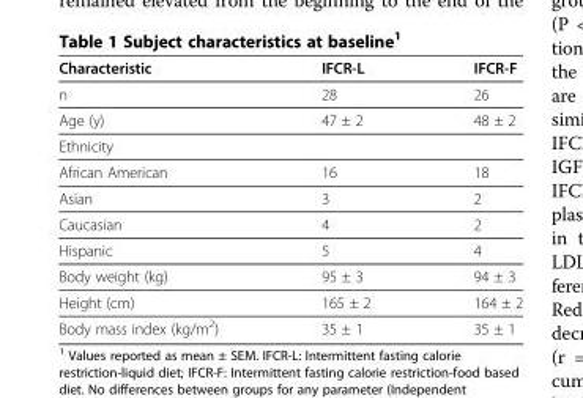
<table><thead><tr><td>Characteristic</td><td>IFCR-L</td><td>IFCR-F</td></tr></thead><tbody><tr><td>n</td><td>28</td><td>26</td></tr><tr><td>Age (y)</td><td>47 ± 2</td><td>48 ± 2</td></tr><tr><td colspan="3">Ethnicity</td></tr><tr><td>African American</td><td>16</td><td>18</td></tr><tr><td>Asian</td><td>3</td><td>2</td></tr><tr><td>Caucasian</td><td>4</td><td>2</td></tr><tr><td>Hispanic</td><td>5</td><td>4</td></tr><tr><td>Body weight (kg)</td><td>95 ± 3</td><td>94 ± 3</td></tr><tr><td>Height (cm)</td><td>165 ± 2</td><td>164 ± 2</td></tr><tr><td>Body mass index (kg/m<sup>2</sup>)</td><td>35 ± 1</td><td>35 ± 1</td></tr></tbody></table>